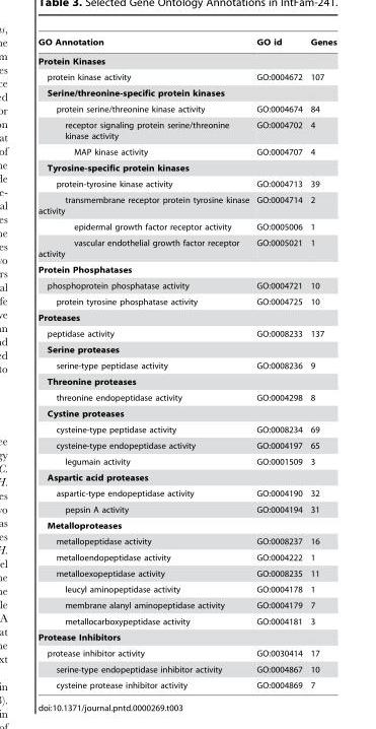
<table><thead><tr><td>GO Annotation</td><td>GO id</td><td>Genes</td></tr></thead><tbody><tr><td colspan="3">Protein Kinases</td></tr><tr><td>protein kinase activity</td><td>GO:0004672</td><td>107</td></tr><tr><td colspan="3">Serine/threonine-specific protein kinases</td></tr><tr><td>protein serine/threonine kinase activity</td><td>GO:0004674</td><td>84</td></tr><tr><td>receptor signaling protein serine/threonine kinase activity</td><td>GO:0004702</td><td>4</td></tr><tr><td>MAP kinase activity</td><td>GO:0004707</td><td>4</td></tr><tr><td colspan="3">Tyrosine-specific protein kinases</td></tr><tr><td>protein-tyrosine kinase activity</td><td>GO:0004713</td><td>39</td></tr><tr><td>transmembrane receptor protein tyrosine kinase activity</td><td>GO:0004714</td><td>2</td></tr><tr><td>epidermal growth factor receptor activity</td><td>GO:0005006</td><td>1</td></tr><tr><td>vascular endothelial growth factor receptor activity</td><td>GO:0005021</td><td>1</td></tr><tr><td colspan="3">Protein Phosphatases</td></tr><tr><td>phosphoprotein phosphatase activity</td><td>GO:0004721</td><td>10</td></tr><tr><td>protein tyrosine phosphatase activity</td><td>GO:0004725</td><td>10</td></tr><tr><td colspan="3">Proteases</td></tr><tr><td>peptidase activity</td><td>GO:0008233</td><td>137</td></tr><tr><td colspan="3">Serine proteases</td></tr><tr><td>serine-type peptidase activity</td><td>GO:0008236</td><td>9</td></tr><tr><td colspan="3">Threonine proteases</td></tr><tr><td>threonine endopeptidase activity</td><td>GO:0004298</td><td>8</td></tr><tr><td colspan="3">Cystine proteases</td></tr><tr><td>cysteine-type peptidase activity</td><td>GO:0008234</td><td>69</td></tr><tr><td>cysteine-type endopeptidase activity</td><td>GO:0004197</td><td>65</td></tr><tr><td>legumain activity</td><td>GO:0001509</td><td>3</td></tr><tr><td colspan="3">Aspartic acid proteases</td></tr><tr><td>aspartic-type endopeptidase activity</td><td>GO:0004190</td><td>32</td></tr><tr><td>pepsin A activity</td><td>GO:0004194</td><td>31</td></tr><tr><td colspan="3">Metalloproteases</td></tr><tr><td>metallopeptidase activity</td><td>GO:0008237</td><td>16</td></tr><tr><td>metalloendopeptidase activity</td><td>GO:0004222</td><td>1</td></tr><tr><td>metalloexopeptidase activity</td><td>GO:0008235</td><td>11</td></tr><tr><td>leucyl aminopeptidase activity</td><td>GO:0004178</td><td>1</td></tr><tr><td>membrane alanyl aminopeptidase activity</td><td>GO:0004179</td><td>7</td></tr><tr><td>metallocarboxypeptidase activity</td><td>GO:0004181</td><td>3</td></tr><tr><td colspan="3">Protease Inhibitors</td></tr><tr><td>protease inhibitor activity</td><td>GO:0030414</td><td>17</td></tr><tr><td>serine-type endopeptidase inhibitor activity</td><td>GO:0004867</td><td>10</td></tr><tr><td>cysteine protease inhibitor activity</td><td>GO:0004869</td><td>7</td></tr></tbody></table>